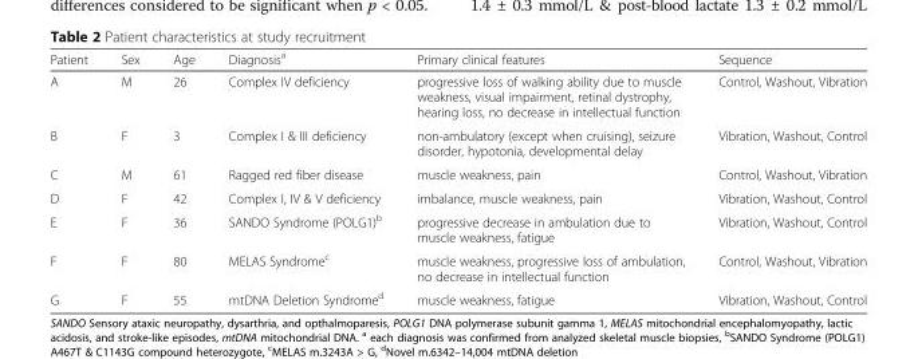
<table><thead><tr><td>Patient</td><td>Sex</td><td>Age</td><td>Diagnosis<sup>a</sup></td><td>Primary clinical features</td><td>Sequence</td></tr></thead><tbody><tr><td>A</td><td>M</td><td>26</td><td>Complex IV deficiency</td><td>progressive loss of walking ability due to muscle weakness, visual impairment, retinal dystrophy, hearing loss, no decrease in intellectual function</td><td>Control, Washout, Vibration</td></tr><tr><td>B</td><td>F</td><td>3</td><td>Complex I &amp; III deficiency</td><td>non-ambulatory (except when cruising), seizure disorder, hypotonia, developmental delay</td><td>Vibration, Washout, Control</td></tr><tr><td>C</td><td>M</td><td>61</td><td>Ragged red fiber disease</td><td>muscle weakness, pain</td><td>Control, Washout, Vibration</td></tr><tr><td>D</td><td>F</td><td>42</td><td>Complex I, IV &amp; V deficiency</td><td>imbalance, muscle weakness, pain</td><td>Vibration, Washout, Control</td></tr><tr><td>E</td><td>F</td><td>36</td><td>SANDO Syndrome (POLG1)<sup>b</sup></td><td>progressive decrease in ambulation due to muscle weakness, fatigue</td><td>Vibration, Washout, Control</td></tr><tr><td>F</td><td>F</td><td>80</td><td>MELAS Syndrome<sup>c</sup></td><td>muscle weakness, progressive loss of ambulation, no decrease in intellectual function</td><td>Control, Washout, Vibration</td></tr><tr><td>G</td><td>F</td><td>55</td><td>mtDNA Deletion Syndrome<sup>d</sup></td><td>muscle weakness, fatigue</td><td>Vibration, Washout, Control</td></tr></tbody></table>